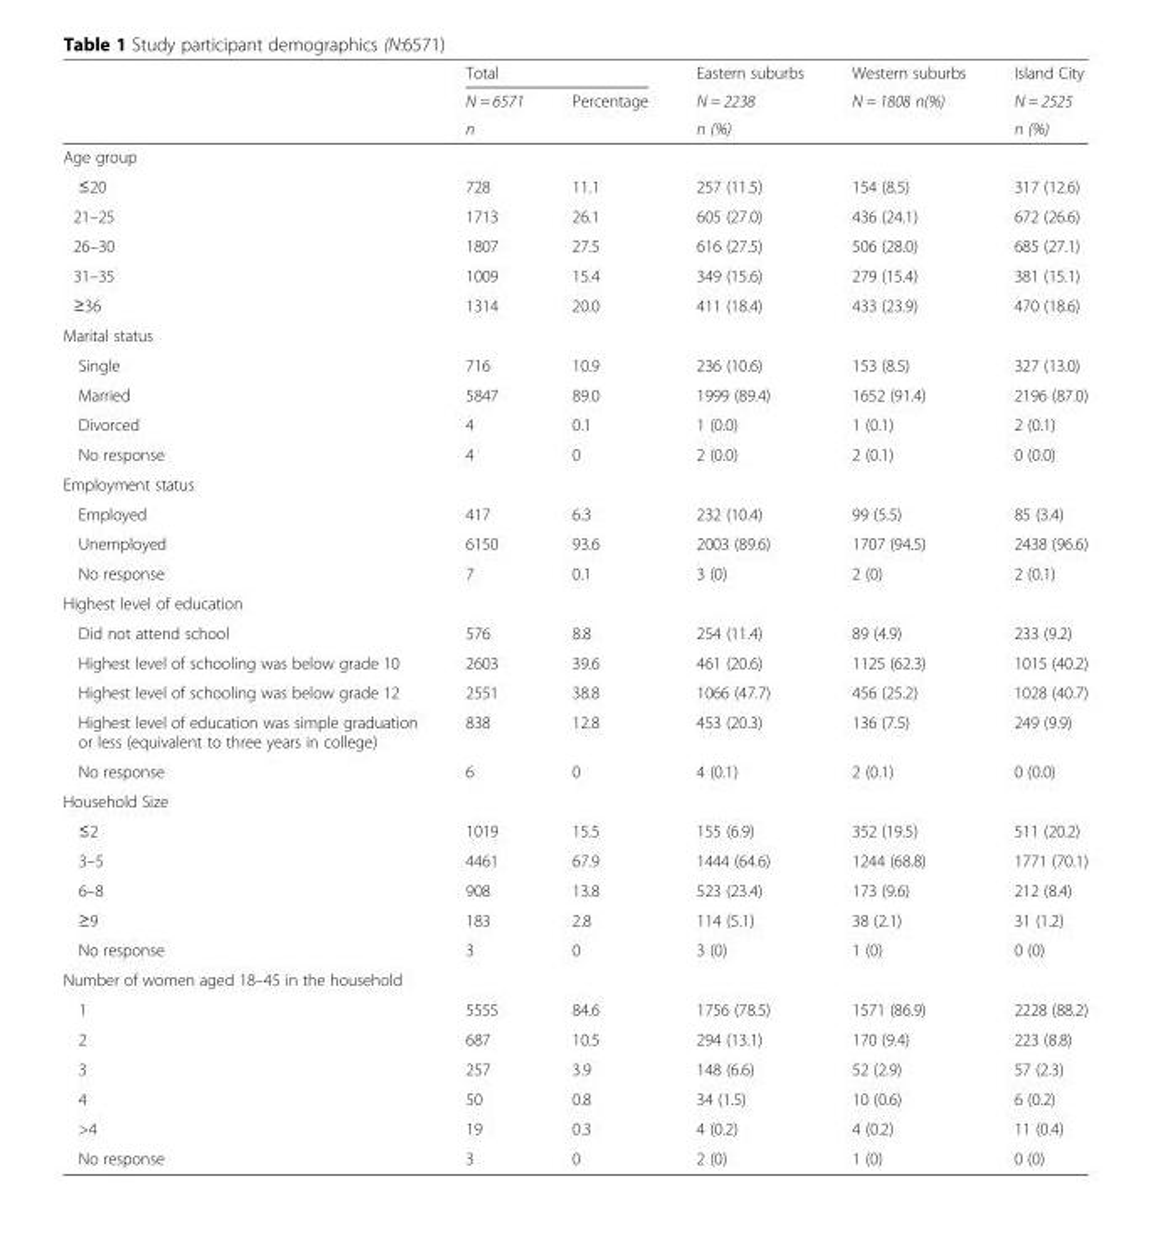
<table><thead><tr><td rowspan="3"></td><td rowspan="3">Total N = 6571 n</td><td rowspan="3">Percentage</td><td rowspan="3">Eastern suburbs N = 2238 n (%)</td><td rowspan="3">Western suburbs N = 1808 n(%)</td><td rowspan="3">Island City N = 2525 n (%)</td></tr><tr></tr><tr></tr></thead><tbody><tr><td colspan="6">Age group</td></tr><tr><td>≤20</td><td>728</td><td>11.1</td><td>257 (11.5)</td><td>154 (8.5)</td><td>317 (12.6)</td></tr><tr><td>21–25</td><td>1713</td><td>26.1</td><td>605 (27.0)</td><td>436 (24.1)</td><td>672 (26.6)</td></tr><tr><td>26–30</td><td>1807</td><td>27.5</td><td>616 (27.5)</td><td>506 (28.0)</td><td>685 (27.1)</td></tr><tr><td>31–35</td><td>1009</td><td>15.4</td><td>349 (15.6)</td><td>279 (15.4)</td><td>381 (15.1)</td></tr><tr><td>≥36</td><td>1314</td><td>20.0</td><td>411 (18.4)</td><td>433 (23.9)</td><td>470 (18.6)</td></tr><tr><td colspan="6">Marital status</td></tr><tr><td>Single</td><td>716</td><td>10.9</td><td>236 (10.6)</td><td>153 (8.5)</td><td>327 (13.0)</td></tr><tr><td>Married</td><td>5847</td><td>89.0</td><td>1999 (89.4)</td><td>1652 (91.4)</td><td>2196 (87.0)</td></tr><tr><td>Divorced</td><td>4</td><td>0.1</td><td>1 (0.0)</td><td>1 (0.1)</td><td>2 (0.1)</td></tr><tr><td>No response</td><td>4</td><td>0</td><td>2 (0.0)</td><td>2 (0.1)</td><td>0 (0.0)</td></tr><tr><td colspan="6">Employment status</td></tr><tr><td>Employed</td><td>417</td><td>6.3</td><td>232 (10.4)</td><td>99 (5.5)</td><td>85 (3.4)</td></tr><tr><td>Unemployed</td><td>6150</td><td>93.6</td><td>2003 (89.6)</td><td>1707 (94.5)</td><td>2438 (96.6)</td></tr><tr><td>No response</td><td>7</td><td>0.1</td><td>3 (0)</td><td>2 (0)</td><td>2 (0.1)</td></tr><tr><td colspan="6">Highest level of education</td></tr><tr><td>Did not attend school</td><td>576</td><td>8.8</td><td>254 (11.4)</td><td>89 (4.9)</td><td>233 (9.2)</td></tr><tr><td>Highest level of schooling was below grade 10</td><td>2603</td><td>39.6</td><td>461 (20.6)</td><td>1125 (62.3)</td><td>1015 (40.2)</td></tr><tr><td>Highest level of schooling was below grade 12</td><td>2551</td><td>38.8</td><td>1066 (47.7)</td><td>456 (25.2)</td><td>1028 (40.7)</td></tr><tr><td>Highest level of education was simple graduation or less (equivalent to three years in college)</td><td>838</td><td>12.8</td><td>453 (20.3)</td><td>136 (7.5)</td><td>249 (9.9)</td></tr><tr><td>No response</td><td>6</td><td>0</td><td>4 (0.1)</td><td>2 (0.1)</td><td>0 (0.0)</td></tr><tr><td colspan="6">Household Size</td></tr><tr><td>≤2</td><td>1019</td><td>15.5</td><td>155 (6.9)</td><td>352 (19.5)</td><td>511 (20.2)</td></tr><tr><td>3–5</td><td>4461</td><td>67.9</td><td>1444 (64.6)</td><td>1244 (68.8)</td><td>1771 (70.1)</td></tr><tr><td>6–8</td><td>908</td><td>13.8</td><td>523 (23.4)</td><td>173 (9.6)</td><td>212 (8.4)</td></tr><tr><td>≥9</td><td>183</td><td>2.8</td><td>114 (5.1)</td><td>38 (2.1)</td><td>31 (1.2)</td></tr><tr><td>No response</td><td>3</td><td>0</td><td>3 (0)</td><td>1 (0)</td><td>0 (0)</td></tr><tr><td colspan="6">Number of women aged 18–45 in the household</td></tr><tr><td>1</td><td>5555</td><td>84.6</td><td>1756 (78.5)</td><td>1571 (86.9)</td><td>2228 (88.2)</td></tr><tr><td>2</td><td>687</td><td>10.5</td><td>294 (13.1)</td><td>170 (9.4)</td><td>223 (8.8)</td></tr><tr><td>3</td><td>257</td><td>3.9</td><td>148 (6.6)</td><td>52 (2.9)</td><td>57 (2.3)</td></tr><tr><td>4</td><td>50</td><td>0.8</td><td>34 (1.5)</td><td>10 (0.6)</td><td>6 (0.2)</td></tr><tr><td>&gt;4</td><td>19</td><td>0.3</td><td>4 (0.2)</td><td>4 (0.2)</td><td>11 (0.4)</td></tr><tr><td>No response</td><td>3</td><td>0</td><td>2 (0)</td><td>1 (0)</td><td>0 (0)</td></tr></tbody></table>